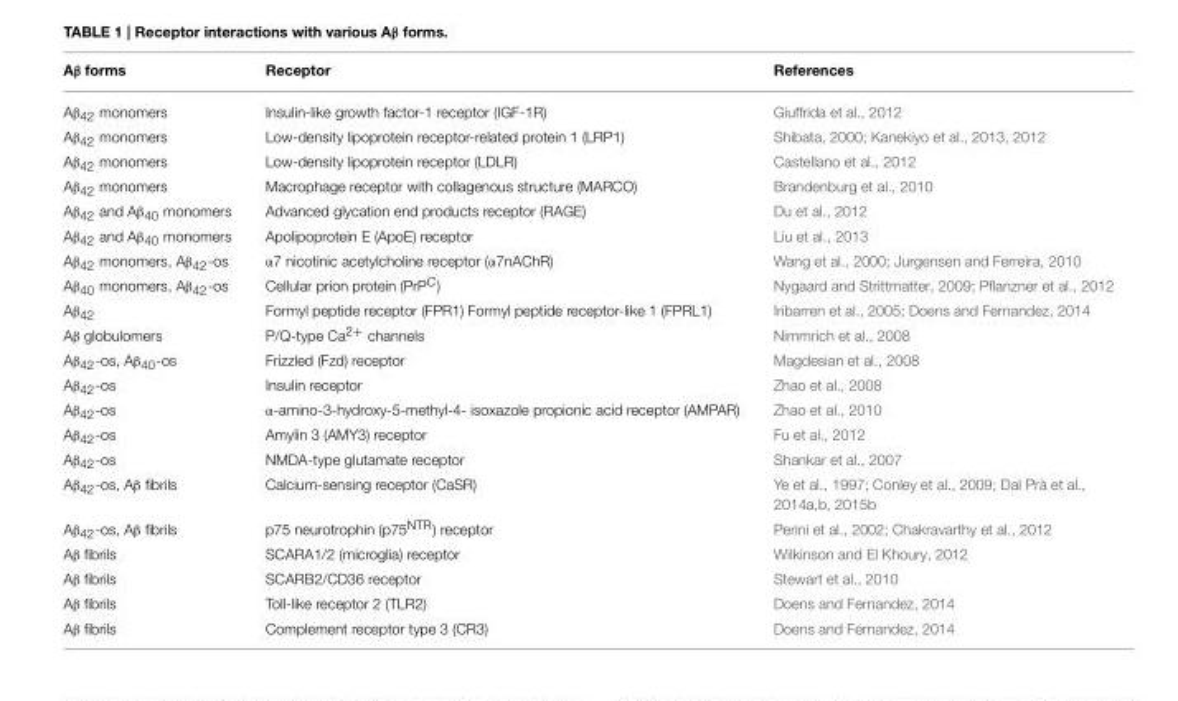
<table><thead><tr><td>Aβ forms</td><td>Receptor</td><td>References</td></tr></thead><tbody><tr><td>Aβ<sub>42</sub> monomers</td><td>Insulin-like growth factor-1 receptor (IGF-1R)</td><td>Giuffrida et al., 2012</td></tr><tr><td>Aβ<sub>42</sub> monomers</td><td>Low-density lipoprotein receptor-related protein 1 (LRP1)</td><td>Shibata, 2000; Kanekiyo et al., 2013, 2012</td></tr><tr><td>Aβ<sub>42</sub> monomers</td><td>Low-density lipoprotein receptor (LDLR)</td><td>Castellano et al., 2012</td></tr><tr><td>Aβ<sub>42</sub> monomers</td><td>Macrophage receptor with collagenous structure (MARCO)</td><td>Brandenburg et al., 2010</td></tr><tr><td>Aβ<sub>42</sub> and Aβ<sub>40</sub> monomers</td><td>Advanced glycation end products receptor (RAGE)</td><td>Du et al., 2012</td></tr><tr><td>Aβ<sub>42</sub> and Aβ<sub>40</sub> monomers</td><td>Apolipoprotein E (ApoE) receptor</td><td>Liu et al., 2013</td></tr><tr><td>Aβ<sub>42</sub> monomers, Aβ<sub>42</sub>-os</td><td>α7 nicotinic acetylcholine receptor (α7nAChR)</td><td>Wang et al., 2000; Jurgensen and Ferreira, 2010</td></tr><tr><td>Aβ<sub>40</sub> monomers, Aβ<sub>42</sub>-os</td><td>Cellular prion protein (PrP<sup>C</sup>)</td><td>Nygaard and Strittmatter, 2009; Pflanzner et al., 2012</td></tr><tr><td>Aβ<sub>42</sub></td><td>Formyl peptide receptor (FPR1) Formyl peptide receptor-like 1 (FPRL1)</td><td>Iribarren et al., 2005; Doens and Fernandez, 2014</td></tr><tr><td>Aβ globulomers</td><td>P/Q-type Ca<sup>2+</sup> channels</td><td>Nimmrich et al., 2008</td></tr><tr><td>Aβ<sub>42</sub>-os, Aβ<sub>40</sub>-os</td><td>Frizzled (Fzd) receptor</td><td>Magdesian et al., 2008</td></tr><tr><td>Aβ<sub>42</sub>-os</td><td>Insulin receptor</td><td>Zhao et al., 2008</td></tr><tr><td>Aβ<sub>42</sub>-os</td><td>α-amino-3-hydroxy-5-methyl-4- isoxazole propionic acid receptor (AMPAR)</td><td>Zhao et al., 2010</td></tr><tr><td>Aβ<sub>42</sub>-os</td><td>Amylin 3 (AMY3) receptor</td><td>Fu et al., 2012</td></tr><tr><td>Aβ<sub>42</sub>-os</td><td>NMDA-type glutamate receptor</td><td>Shankar et al., 2007</td></tr><tr><td>Aβ<sub>42</sub>-os, Aβ fibrils</td><td>Calcium-sensing receptor (CaSR)</td><td>Ye et al., 1997; Conley et al., 2009; Dal Prà et al., 2014a,b, 2015b</td></tr><tr><td>Aβ<sub>42</sub>-os, Aβ fibrils</td><td>p75 neurotrophin (p75<sup>NTR</sup>) receptor</td><td>Perini et al., 2002; Chakravarthy et al., 2012</td></tr><tr><td>Aβ fibrils</td><td>SCARA1/2 (microglia) receptor</td><td>Wilkinson and El Khoury, 2012</td></tr><tr><td>Aβ fibrils</td><td>SCARB2/CD36 receptor</td><td>Stewart et al., 2010</td></tr><tr><td>Aβ fibrils</td><td>Toll-like receptor 2 (TLR2)</td><td>Doens and Fernandez, 2014</td></tr><tr><td>Aβ fibrils</td><td>Complement receptor type 3 (CR3)</td><td>Doens and Fernandez, 2014</td></tr></tbody></table>